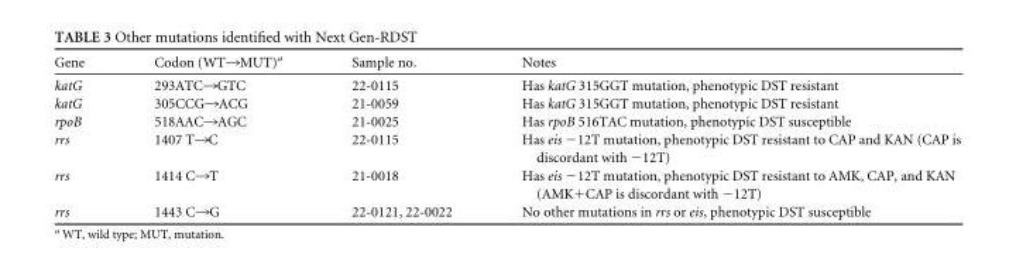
<table><thead><tr><td>Gene</td><td>Codon (WT→MUT)<sup>a</sup></td><td>Sample no.</td><td>Notes</td></tr></thead><tbody><tr><td>katG</td><td>293ATC→GTC</td><td>22-0115</td><td>Has katG 315GGT mutation, phenotypic DST resistant</td></tr><tr><td>katG</td><td>305CCG→ACG</td><td>21-0059</td><td>Has katG 315GGT mutation, phenotypic DST resistant</td></tr><tr><td>rpoB</td><td>518AAC→AGC</td><td>21-0025</td><td>Has rpoB 516TAC mutation, phenotypic DST susceptible</td></tr><tr><td>rrs</td><td>1407 T→C</td><td>22-0115</td><td>Has eis −12T mutation, phenotypic DST resistant to CAP and KAN (CAP is discordant with −12T)</td></tr><tr><td>rrs</td><td>1414 C→T</td><td>21-0018</td><td>Has eis −12T mutation, phenotypic DST resistant to AMK, CAP, and KAN (AMK+CAP is discordant with −12T)</td></tr><tr><td>rrs</td><td>1443 C→G</td><td>22-0121, 22-0022</td><td>No other mutations in rrs or eis, phenotypic DST susceptible</td></tr></tbody></table>